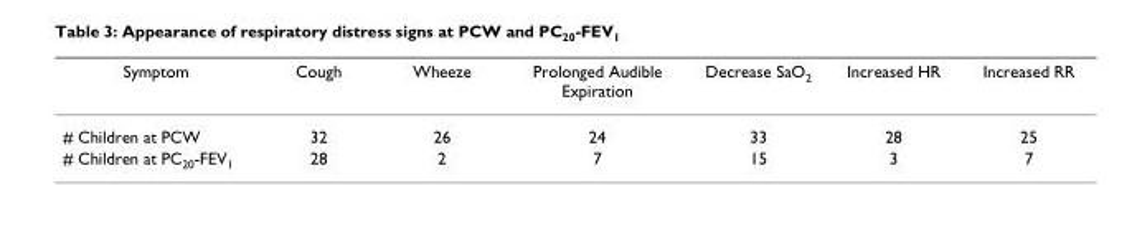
<table><thead><tr><td>Symptom</td><td>Cough</td><td>Wheeze</td><td>Prolonged Audible Expiration</td><td>Decrease SaO<sub>2</sub></td><td>Increased HR</td><td>Increased RR</td></tr></thead><tbody><tr><td># Children at PCW</td><td>32</td><td>26</td><td>24</td><td>33</td><td>28</td><td>25</td></tr><tr><td># Children at PC<sub>20</sub>-FEV<sub>1</sub></td><td>28</td><td>2</td><td>7</td><td>15</td><td>3</td><td>7</td></tr></tbody></table>